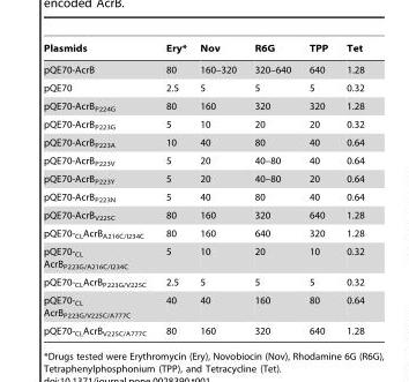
<table><thead><tr><td>Plasmids</td><td>Ery*</td><td>Nov</td><td>R6G</td><td>TPP</td><td>Tet</td></tr></thead><tbody><tr><td>pQE70-AcrB</td><td>80</td><td>160–320</td><td>320–640</td><td>640</td><td>1.28</td></tr><tr><td>pQE70</td><td>2.5</td><td>5</td><td>5</td><td>5</td><td>0.32</td></tr><tr><td>pQE70-AcrB<sub>P224G</sub></td><td>80</td><td>160</td><td>320</td><td>320</td><td>1.28</td></tr><tr><td>pQE70-AcrB<sub>P223G</sub></td><td>5</td><td>10</td><td>20</td><td>20</td><td>0.32</td></tr><tr><td>pQE70-AcrB<sub>P223A</sub></td><td>10</td><td>40</td><td>80</td><td>40</td><td>0.64</td></tr><tr><td>pQE70-AcrB<sub>P223V</sub></td><td>5</td><td>20</td><td>40–80</td><td>40</td><td>0.64</td></tr><tr><td>pQE70-AcrB<sub>P223Y</sub></td><td>5</td><td>20</td><td>40–80</td><td>20</td><td>0.64</td></tr><tr><td>pQE70-AcrB<sub>P223N</sub></td><td>5</td><td>40</td><td>80</td><td>40</td><td>0.64</td></tr><tr><td>pQE70-AcrB<sub>V225C</sub></td><td>80</td><td>160</td><td>320</td><td>640</td><td>1.28</td></tr><tr><td>pQE70-<sub>CL</sub>AcrB<sub>A216C/I234C</sub></td><td>80</td><td>160</td><td>640</td><td>320</td><td>1.28</td></tr><tr><td>pQE70-<sub>CL</sub> AcrB<sub>P223G/A216C/I234C</sub></td><td>5</td><td>10</td><td>20</td><td>10</td><td>0.32</td></tr><tr><td>pQE70-<sub>CL</sub>AcrB<sub>P223G/V225C</sub></td><td>2.5</td><td>5</td><td>5</td><td>5</td><td>0.32</td></tr><tr><td>pQE70-<sub>CL</sub> AcrB<sub>P223G/V225C/A777C</sub></td><td>40</td><td>40</td><td>160</td><td>80</td><td>0.64</td></tr><tr><td>pQE70-<sub>CL</sub>AcrB<sub>V225C/A777C</sub></td><td>80</td><td>160</td><td>320</td><td>640</td><td>1.28</td></tr></tbody></table>